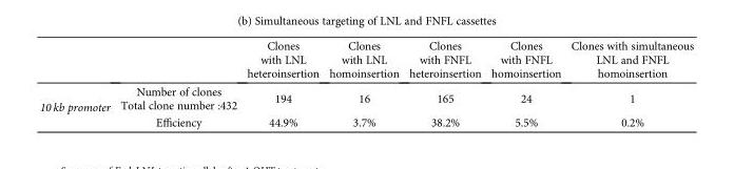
<table><thead><tr><td></td><td></td><td>Clones with LNL heteroinsertion</td><td>Clones with LNL homoinsertion</td><td>Clones with FNFL heteroinsertion</td><td>Clones with FNFL homoinsertion</td><td>Clones with simultaneous LNL and FNFL homoinsertion</td></tr></thead><tbody><tr><td rowspan="2">10 kb promoter</td><td>Number of clones Total clone number :432</td><td>194</td><td>16</td><td>165</td><td>24</td><td>1</td></tr><tr><td>Efficiency</td><td>44.9%</td><td>3.7%</td><td>38.2%</td><td>5.5%</td><td>0.2%</td></tr></tbody></table>